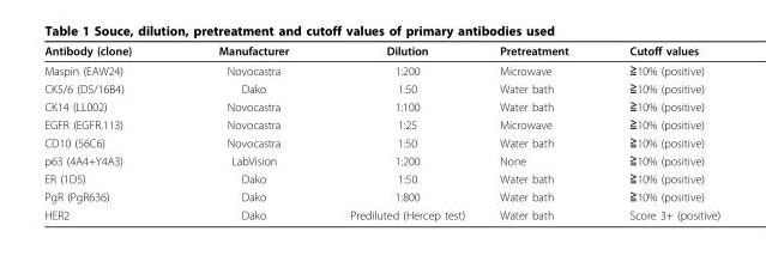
<table><thead><tr><td>Antibody (clone)</td><td>Manufacturer</td><td>Dilution</td><td>Pretreatment</td><td>Cutoff values</td></tr></thead><tbody><tr><td>Maspin (EAW24)</td><td>Novocastra</td><td>1:200</td><td>Microwave</td><td>≧10% (positive)</td></tr><tr><td>CK5/6 (D5/16B4)</td><td>Dako</td><td>1:50</td><td>Water bath</td><td>≧10% (positive)</td></tr><tr><td>CK14 (LL002)</td><td>Novocastra</td><td>1:100</td><td>Water bath</td><td>≧10% (positive)</td></tr><tr><td>EGFR (EGFR.113)</td><td>Novocastra</td><td>1:25</td><td>Microwave</td><td>≧10% (positive)</td></tr><tr><td>CD10 (56C6)</td><td>Novocastra</td><td>1:50</td><td>Water bath</td><td>≧10% (positive)</td></tr><tr><td>p63 (4A4+Y4A3)</td><td>LabVision</td><td>1:200</td><td>None</td><td>≧10% (positive)</td></tr><tr><td>ER (1D5)</td><td>Dako</td><td>1:50</td><td>Water bath</td><td>≧10% (positive)</td></tr><tr><td>PgR (PgR636)</td><td>Dako</td><td>1:800</td><td>Water bath</td><td>≧10% (positive)</td></tr><tr><td>HER2</td><td>Dako</td><td>Prediluted (Hercep test)</td><td>Water bath</td><td>Score 3+ (positive)</td></tr></tbody></table>